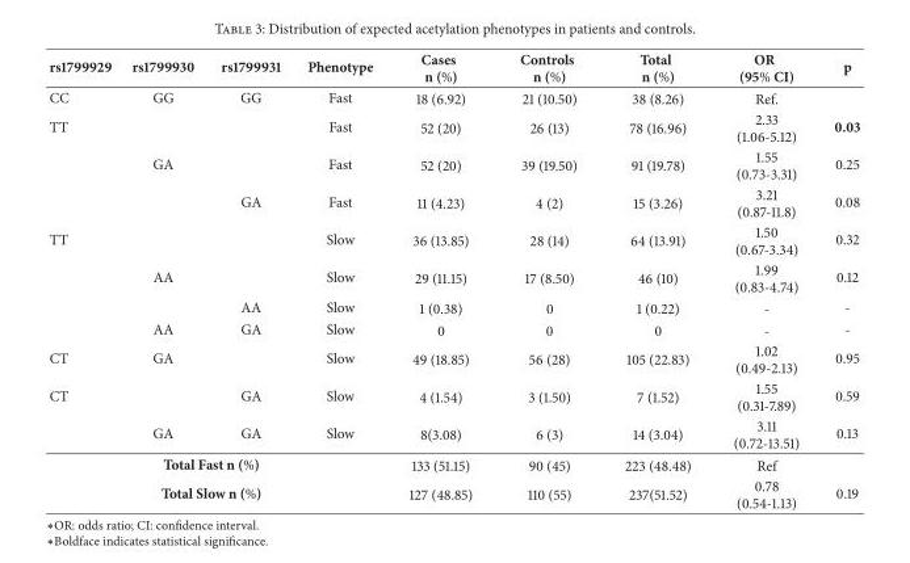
<table><thead><tr><td>rs1799929</td><td>rs1799930</td><td>rs1799931</td><td>Phenotype</td><td>Cases n (%)</td><td>Controls n (%)</td><td>Total n (%)</td><td>OR (95% CI)</td><td>p</td></tr></thead><tbody><tr><td>CC</td><td>GG</td><td>GG</td><td>Fast</td><td>18 (6.92)</td><td>21 (10.50)</td><td>38 (8.26)</td><td>Ref.</td><td></td></tr><tr><td rowspan="3">TT</td><td></td><td></td><td>Fast</td><td>52 (20)</td><td>26 (13)</td><td>78 (16.96)</td><td>2.33 (1.06-5.12)</td><td>0.03</td></tr><tr><td>GA</td><td></td><td>Fast</td><td>52 (20)</td><td>39 (19.50)</td><td>91 (19.78)</td><td>1.55 (0.73-3.31)</td><td>0.25</td></tr><tr><td></td><td>GA</td><td>Fast</td><td>11 (4.23)</td><td>4 (2)</td><td>15 (3.26)</td><td>3.21 (0.87-11.8)</td><td>0.08</td></tr><tr><td rowspan="4">TT</td><td></td><td></td><td>Slow</td><td>36 (13.85)</td><td>28 (14)</td><td>64 (13.91)</td><td>1.50 (0.67-3.34)</td><td>0.32</td></tr><tr><td>AA</td><td></td><td>Slow</td><td>29 (11.15)</td><td>17 (8.50)</td><td>46 (10)</td><td>1.99 (0.83-4.74)</td><td>0.12</td></tr><tr><td></td><td>AA</td><td>Slow</td><td>1 (0.38)</td><td>0</td><td>1 (0.22)</td><td>-</td><td>-</td></tr><tr><td>AA</td><td>GA</td><td>Slow</td><td>0</td><td>0</td><td>0</td><td>-</td><td>-</td></tr><tr><td>CT</td><td>GA</td><td></td><td>Slow</td><td>49 (18.85)</td><td>56 (28)</td><td>105 (22.83)</td><td>1.02 (0.49-2.13)</td><td>0.95</td></tr><tr><td rowspan="2">CT</td><td></td><td>GA</td><td>Slow</td><td>4 (1.54)</td><td>3 (1.50)</td><td>7 (1.52)</td><td>1.55 (0.31-7.89)</td><td>0.59</td></tr><tr><td>GA</td><td>GA</td><td>Slow</td><td>8(3.08)</td><td>6 (3)</td><td>14 (3.04)</td><td>3.11 (0.72-13.51)</td><td>0.13</td></tr><tr><td colspan="4">Total Fast n (%)</td><td>133 (51.15)</td><td>90 (45)</td><td>223 (48.48)</td><td>Ref</td><td></td></tr><tr><td colspan="4">Total Slow n (%)</td><td>127 (48.85)</td><td>110 (55)</td><td>237(51.52)</td><td>0.78 (0.54-1.13)</td><td>0.19</td></tr></tbody></table>